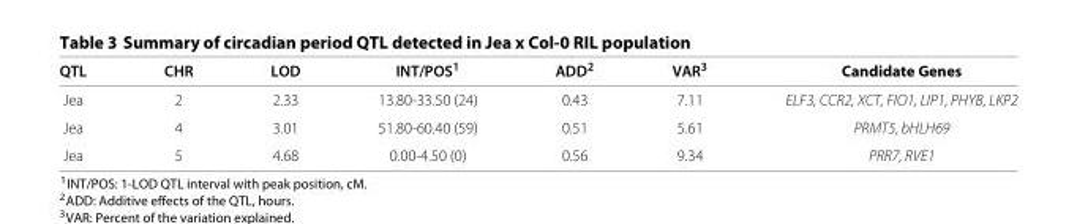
<table><thead><tr><td>QTL</td><td>CHR</td><td>LOD</td><td>INT/POS<sup>1</sup></td><td>ADD<sup>2</sup></td><td>VAR<sup>3</sup></td><td>Candidate Genes</td></tr></thead><tbody><tr><td>Jea</td><td>2</td><td>2.33</td><td>13.80-33.50 (24)</td><td>0.43</td><td>7.11</td><td>ELF3, CCR2, XCT, FIO1, LIP1, PHYB, LKP2</td></tr><tr><td>Jea</td><td>4</td><td>3.01</td><td>51.80-60.40 (59)</td><td>0.51</td><td>5.61</td><td>PRMT5, bHLH69</td></tr><tr><td>Jea</td><td>5</td><td>4.68</td><td>0.00-4.50 (0)</td><td>0.56</td><td>9.34</td><td>PRR7, RVE1</td></tr></tbody></table>